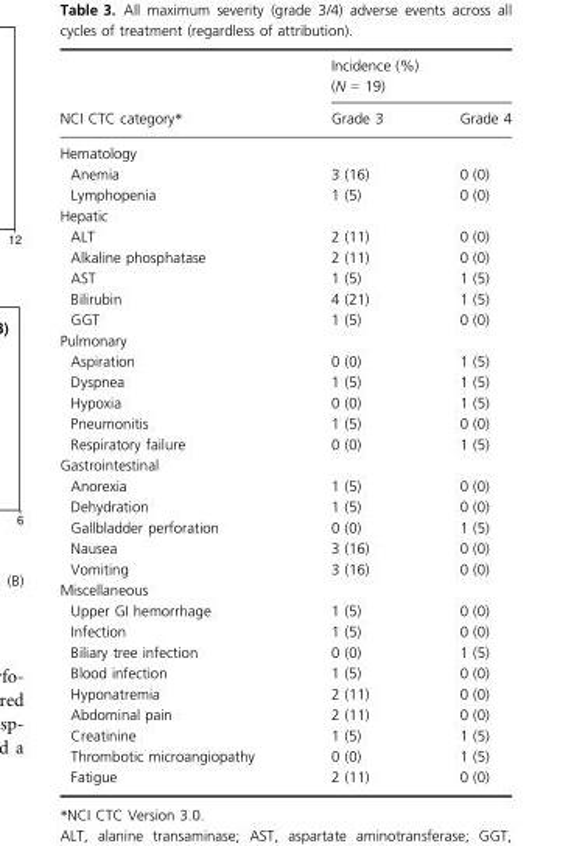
<table><thead><tr><td rowspan="2">NCI CTC category*</td><td colspan="2">Incidence (%) (N = 19)</td></tr><tr><td>Grade 3</td><td>Grade 4</td></tr></thead><tbody><tr><td colspan="3">Hematology</td></tr><tr><td>Anemia</td><td>3 (16)</td><td>0 (0)</td></tr><tr><td>Lymphopenia</td><td>1 (5)</td><td>0 (0)</td></tr><tr><td colspan="3">Hepatic</td></tr><tr><td>ALT</td><td>2 (11)</td><td>0 (0)</td></tr><tr><td>Alkaline phosphatase</td><td>2 (11)</td><td>0 (0)</td></tr><tr><td>AST</td><td>1 (5)</td><td>1 (5)</td></tr><tr><td>Bilirubin</td><td>4 (21)</td><td>1 (5)</td></tr><tr><td>GGT</td><td>1 (5)</td><td>0 (0)</td></tr><tr><td colspan="3">Pulmonary</td></tr><tr><td>Aspiration</td><td>0 (0)</td><td>1 (5)</td></tr><tr><td>Dyspnea</td><td>1 (5)</td><td>1 (5)</td></tr><tr><td>Hypoxia</td><td>0 (0)</td><td>1 (5)</td></tr><tr><td>Pneumonitis</td><td>1 (5)</td><td>0 (0)</td></tr><tr><td>Respiratory failure</td><td>0 (0)</td><td>1 (5)</td></tr><tr><td colspan="3">Gastrointestinal</td></tr><tr><td>Anorexia</td><td>1 (5)</td><td>0 (0)</td></tr><tr><td>Dehydration</td><td>1 (5)</td><td>0 (0)</td></tr><tr><td>Gallbladder perforation</td><td>0 (0)</td><td>1 (5)</td></tr><tr><td>Nausea</td><td>3 (16)</td><td>0 (0)</td></tr><tr><td>Vomiting</td><td>3 (16)</td><td>0 (0)</td></tr><tr><td colspan="3">Miscellaneous</td></tr><tr><td>Upper GI hemorrhage</td><td>1 (5)</td><td>0 (0)</td></tr><tr><td>Infection</td><td>1 (5)</td><td>0 (0)</td></tr><tr><td>Biliary tree infection</td><td>0 (0)</td><td>1 (5)</td></tr><tr><td>Blood infection</td><td>1 (5)</td><td>0 (0)</td></tr><tr><td>Hyponatremia</td><td>2 (11)</td><td>0 (0)</td></tr><tr><td>Abdominal pain</td><td>2 (11)</td><td>0 (0)</td></tr><tr><td>Creatinine</td><td>1 (5)</td><td>1 (5)</td></tr><tr><td>Thrombotic microangiopathy</td><td>0 (0)</td><td>1 (5)</td></tr><tr><td>Fatigue</td><td>2 (11)</td><td>0 (0)</td></tr></tbody></table>